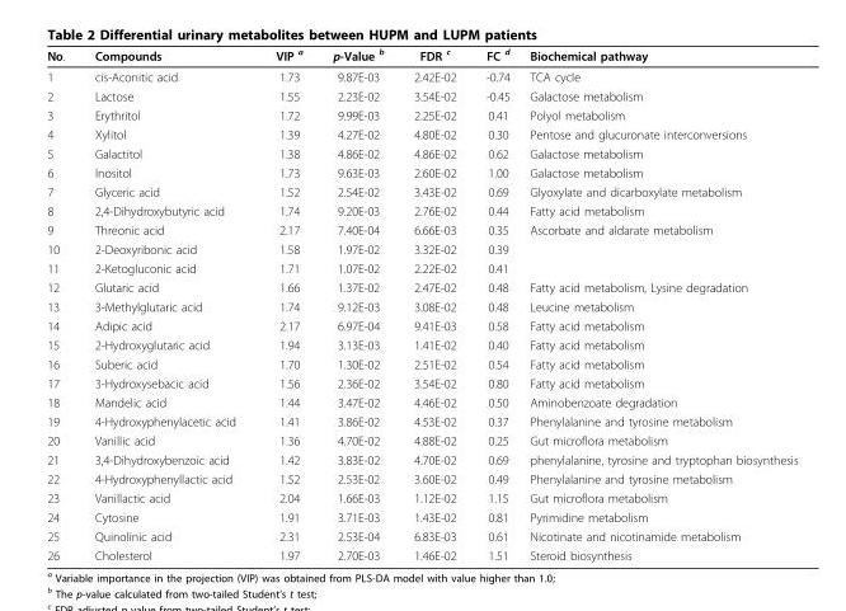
<table><thead><tr><td>No.</td><td>Compounds</td><td>VIP <sup>a</sup></td><td>p-Value <sup>b</sup></td><td>FDR <sup>c</sup></td><td>FC <sup>d</sup></td><td>Biochemical pathway</td></tr></thead><tbody><tr><td>1</td><td>cis-Aconitic acid</td><td>1.73</td><td>9.87E-03</td><td>2.42E-02</td><td>-0.74</td><td>TCA cycle</td></tr><tr><td>2</td><td>Lactose</td><td>1.55</td><td>2.23E-02</td><td>3.54E-02</td><td>-0.45</td><td>Galactose metabolism</td></tr><tr><td>3</td><td>Erythritol</td><td>1.72</td><td>9.99E-03</td><td>2.25E-02</td><td>0.41</td><td>Polyol metabolism</td></tr><tr><td>4</td><td>Xylitol</td><td>1.39</td><td>4.27E-02</td><td>4.80E-02</td><td>0.30</td><td>Pentose and glucuronate interconversions</td></tr><tr><td>5</td><td>Galactitol</td><td>1.38</td><td>4.86E-02</td><td>4.86E-02</td><td>0.62</td><td>Galactose metabolism</td></tr><tr><td>6</td><td>Inositol</td><td>1.73</td><td>9.63E-03</td><td>2.60E-02</td><td>1.00</td><td>Galactose metabolism</td></tr><tr><td>7</td><td>Glyceric acid</td><td>1.52</td><td>2.54E-02</td><td>3.43E-02</td><td>0.69</td><td>Glyoxylate and dicarboxylate metabolism</td></tr><tr><td>8</td><td>2,4-Dihydroxybutyric acid</td><td>1.74</td><td>9.20E-03</td><td>2.76E-02</td><td>0.44</td><td>Fatty acid metabolism</td></tr><tr><td>9</td><td>Threonic acid</td><td>2.17</td><td>7.40E-04</td><td>6.66E-03</td><td>0.35</td><td>Ascorbate and aldarate metabolism</td></tr><tr><td>10</td><td>2-Deoxyribonic acid</td><td>1.58</td><td>1.97E-02</td><td>3.32E-02</td><td>0.39</td><td></td></tr><tr><td>11</td><td>2-Ketogluconic acid</td><td>1.71</td><td>1.07E-02</td><td>2.22E-02</td><td>0.41</td><td></td></tr><tr><td>12</td><td>Glutaric acid</td><td>1.66</td><td>1.37E-02</td><td>2.47E-02</td><td>0.48</td><td>Fatty acid metabolism, Lysine degradation</td></tr><tr><td>13</td><td>3-Methylglutaric acid</td><td>1.74</td><td>9.12E-03</td><td>3.08E-02</td><td>0.48</td><td>Leucine metabolism</td></tr><tr><td>14</td><td>Adipic acid</td><td>2.17</td><td>6.97E-04</td><td>9.41E-03</td><td>0.58</td><td>Fatty acid metabolism</td></tr><tr><td>15</td><td>2-Hydroxyglutaric acid</td><td>1.94</td><td>3.13E-03</td><td>1.41E-02</td><td>0.40</td><td>Fatty acid metabolism</td></tr><tr><td>16</td><td>Suberic acid</td><td>1.70</td><td>1.30E-02</td><td>2.51E-02</td><td>0.54</td><td>Fatty acid metabolism</td></tr><tr><td>17</td><td>3-Hydroxysebacic acid</td><td>1.56</td><td>2.36E-02</td><td>3.54E-02</td><td>0.80</td><td>Fatty acid metabolism</td></tr><tr><td>18</td><td>Mandelic acid</td><td>1.44</td><td>3.47E-02</td><td>4.46E-02</td><td>0.50</td><td>Aminobenzoate degradation</td></tr><tr><td>19</td><td>4-Hydroxyphenylacetic acid</td><td>1.41</td><td>3.86E-02</td><td>4.53E-02</td><td>0.37</td><td>Phenylalanine and tyrosine metabolism</td></tr><tr><td>20</td><td>Vanillic acid</td><td>1.36</td><td>4.70E-02</td><td>4.88E-02</td><td>0.25</td><td>Gut microflora metabolism</td></tr><tr><td>21</td><td>3,4-Dihydroxybenzoic acid</td><td>1.42</td><td>3.83E-02</td><td>4.70E-02</td><td>0.69</td><td>phenylalanine, tyrosine and tryptophan biosynthesis</td></tr><tr><td>22</td><td>4-Hydroxyphenyllactic acid</td><td>1.52</td><td>2.53E-02</td><td>3.60E-02</td><td>0.49</td><td>Phenylalanine and tyrosine metabolism</td></tr><tr><td>23</td><td>Vanillactic acid</td><td>2.04</td><td>1.66E-03</td><td>1.12E-02</td><td>1.15</td><td>Gut microflora metabolism</td></tr><tr><td>24</td><td>Cytosine</td><td>1.91</td><td>3.71E-03</td><td>1.43E-02</td><td>0.81</td><td>Pyrimidine metabolism</td></tr><tr><td>25</td><td>Quinolinic acid</td><td>2.31</td><td>2.53E-04</td><td>6.83E-03</td><td>0.61</td><td>Nicotinate and nicotinamide metabolism</td></tr><tr><td>26</td><td>Cholesterol</td><td>1.97</td><td>2.70E-03</td><td>1.46E-02</td><td>1.51</td><td>Steroid biosynthesis</td></tr></tbody></table>